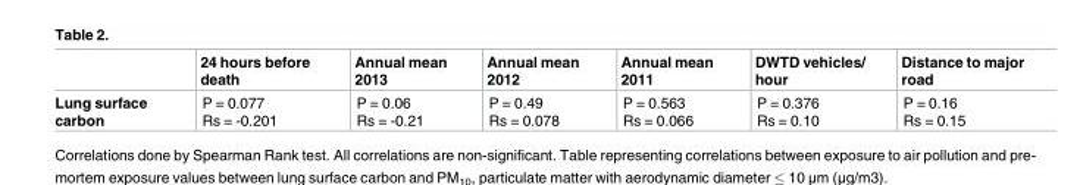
<table><thead><tr><td></td><td>24 hours before death</td><td>Annual mean 2013</td><td>Annual mean 2012</td><td>Annual mean 2011</td><td>DWTD vehicles/ hour</td><td>Distance to major road</td></tr></thead><tbody><tr><td>Lung surface carbon</td><td>P = 0.077 Rs = -0.201</td><td>P = 0.06 Rs = -0.21</td><td>P = 0.49 Rs = 0.078</td><td>P = 0.563 Rs = 0.066</td><td>P = 0.376 Rs = 0.10</td><td>P = 0.16 Rs = 0.15</td></tr></tbody></table>